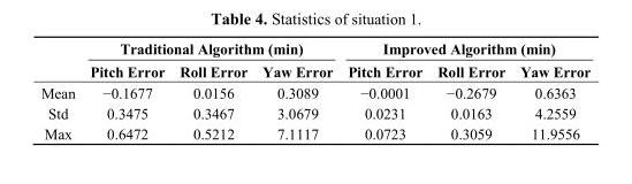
<table><thead><tr><td rowspan="2"></td><td colspan="3">Traditional Algorithm (min)</td><td colspan="3">Improved Algorithm (min)</td></tr><tr><td>Pitch Error</td><td>Roll Error</td><td>Yaw Error</td><td>Pitch Error</td><td>Roll Error</td><td>Yaw Error</td></tr></thead><tbody><tr><td>Mean</td><td>−0.1677</td><td>0.0156</td><td>0.3089</td><td>−0.0001</td><td>−0.2679</td><td>0.6363</td></tr><tr><td>Std</td><td>0.3475</td><td>0.3467</td><td>3.0679</td><td>0.0231</td><td>0.0163</td><td>4.2559</td></tr><tr><td>Max</td><td>0.6472</td><td>0.5212</td><td>7.1117</td><td>0.0723</td><td>0.3059</td><td>11.9556</td></tr></tbody></table>